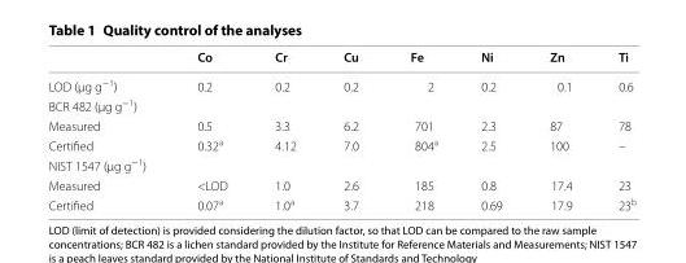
<table><thead><tr><td></td><td>Co</td><td>Cr</td><td>Cu</td><td>Fe</td><td>Ni</td><td>Zn</td><td>Ti</td></tr></thead><tbody><tr><td>LOD (µg g<sup>−1</sup>)</td><td>0.2</td><td>0.2</td><td>0.2</td><td>2</td><td>0.2</td><td>0.1</td><td>0.6</td></tr><tr><td colspan="8">BCR 482 (µg g<sup>−1</sup>)</td></tr><tr><td>Measured</td><td>0.5</td><td>3.3</td><td>6.2</td><td>701</td><td>2.3</td><td>87</td><td>78</td></tr><tr><td>Certified</td><td>0.32<sup>a</sup></td><td>4.12</td><td>7.0</td><td>804<sup>a</sup></td><td>2.5</td><td>100</td><td>–</td></tr><tr><td colspan="8">NIST 1547 (µg g<sup>−1</sup>)</td></tr><tr><td>Measured</td><td>&lt;LOD</td><td>1.0</td><td>2.6</td><td>185</td><td>0.8</td><td>17.4</td><td>23</td></tr><tr><td>Certified</td><td>0.07<sup>a</sup></td><td>1.0<sup>a</sup></td><td>3.7</td><td>218</td><td>0.69</td><td>17.9</td><td>23<sup>b</sup></td></tr></tbody></table>